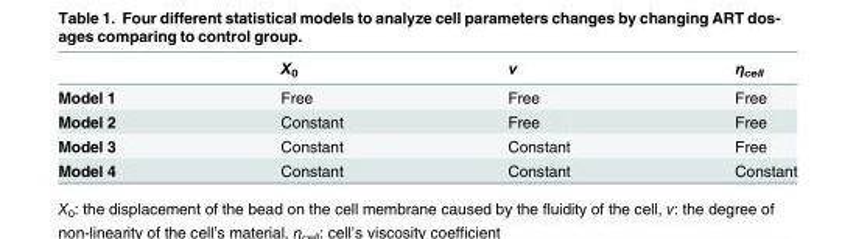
<table><thead><tr><td></td><td>X<sub>0</sub></td><td>ν</td><td>η<sub>cell</sub></td></tr></thead><tbody><tr><td>Model 1</td><td>Free</td><td>Free</td><td>Free</td></tr><tr><td>Model 2</td><td>Constant</td><td>Free</td><td>Free</td></tr><tr><td>Model 3</td><td>Constant</td><td>Constant</td><td>Free</td></tr><tr><td>Model 4</td><td>Constant</td><td>Constant</td><td>Constant</td></tr></tbody></table>